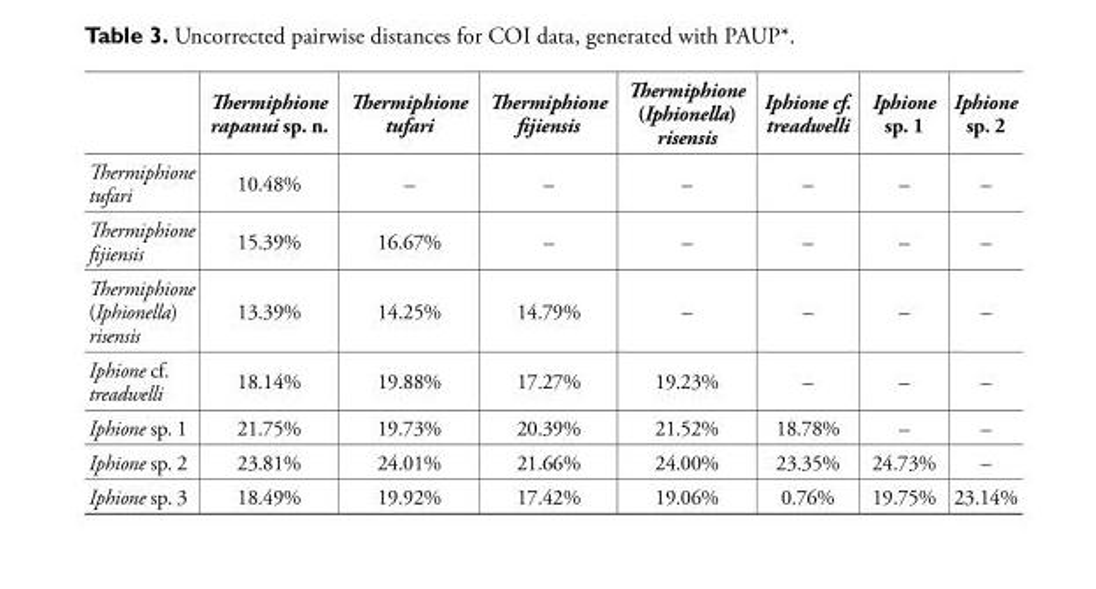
<table><thead><tr><td></td><td>Thermiphione rapanui sp. n.</td><td>Thermiphione tufari</td><td>Thermiphione fijiensis</td><td>Thermiphione (Iphionella) risensis</td><td>Iphione cf. treadwelli</td><td>Iphione sp. 1</td><td>Iphione sp. 2</td></tr></thead><tbody><tr><td>Thermiphione tufari</td><td>10.48%</td><td>–</td><td>–</td><td>–</td><td>–</td><td>–</td><td>–</td></tr><tr><td>Thermiphione fijiensis</td><td>15.39%</td><td>16.67%</td><td>–</td><td>–</td><td>–</td><td>–</td><td>–</td></tr><tr><td>Thermiphione (Iphionella) risensis</td><td>13.39%</td><td>14.25%</td><td>14.79%</td><td>–</td><td>–</td><td>–</td><td>–</td></tr><tr><td>Iphione cf. treadwelli</td><td>18.14%</td><td>19.88%</td><td>17.27%</td><td>19.23%</td><td>–</td><td>–</td><td>–</td></tr><tr><td>Iphione sp. 1</td><td>21.75%</td><td>19.73%</td><td>20.39%</td><td>21.52%</td><td>18.78%</td><td>–</td><td>–</td></tr><tr><td>Iphione sp. 2</td><td>23.81%</td><td>24.01%</td><td>21.66%</td><td>24.00%</td><td>23.35%</td><td>24.73%</td><td>–</td></tr><tr><td>Iphione sp. 3</td><td>18.49%</td><td>19.92%</td><td>17.42%</td><td>19.06%</td><td>0.76%</td><td>19.75%</td><td>23.14%</td></tr></tbody></table>